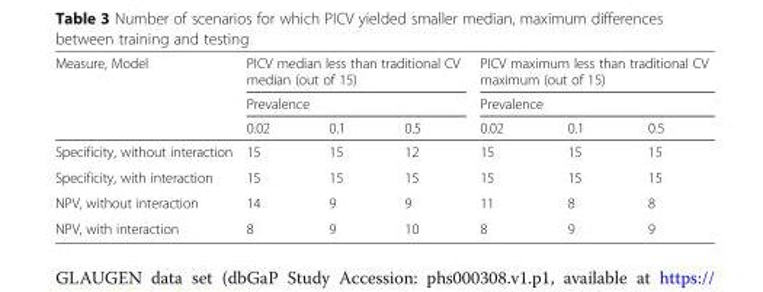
<table><thead><tr><td rowspan="3">Measure, Model</td><td rowspan="2" colspan="3">PICV median less than traditional CV median (out of 15) Prevalence</td><td rowspan="2" colspan="3">PICV maximum less than traditional CV maximum (out of 15) Prevalence</td></tr><tr></tr><tr><td>0.02</td><td>0.1</td><td>0.5</td><td>0.02</td><td>0.1</td><td>0.5</td></tr></thead><tbody><tr><td>Specificity, without interaction</td><td>15</td><td>15</td><td>12</td><td>15</td><td>15</td><td>15</td></tr><tr><td>Specificity, with interaction</td><td>15</td><td>15</td><td>15</td><td>15</td><td>15</td><td>15</td></tr><tr><td>NPV, without interaction</td><td>14</td><td>9</td><td>9</td><td>11</td><td>8</td><td>8</td></tr><tr><td>NPV, with interaction</td><td>8</td><td>9</td><td>10</td><td>8</td><td>9</td><td>9</td></tr></tbody></table>